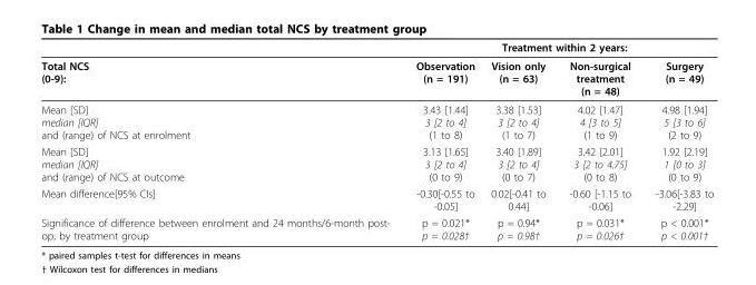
<table><thead><tr><td rowspan="2">Total NCS (0-9):</td><td colspan="4">Treatment within 2 years:</td></tr><tr><td>Observation (n = 191)</td><td>Vision only (n = 63)</td><td>Non-surgical treatment (n = 48)</td><td>Surgery (n = 49)</td></tr></thead><tbody><tr><td>Mean [SD] median [IQR] and (range) of NCS at enrolment</td><td>3.43 [1.44] 3 [2 to 4] (1 to 8)</td><td>3.38 [1.53] 3 [2 to 4] (1 to 7)</td><td>4.02 [1.47] 4 [3 to 5] (1 to 9)</td><td>4.98 [1.94] 5 [3 to 6] (2 to 9)</td></tr><tr><td>Mean [SD] median [IQR] and (range) of NCS at outcome</td><td>3.13 [1.65] 3 [2 to 4] (0 to 9)</td><td>3.40 [1.89] 3 [2 to 4] (0 to 7)</td><td>3.42 [2.01] 3 [2 to 4.75] (0 to 8)</td><td>1.92 [2.19] 1 [0 to 3] (0 to 9)</td></tr><tr><td>Mean difference[95% CIs]</td><td>-0.30[-0.55 to -0.05]</td><td>0.02[-0.41 to 0.44]</td><td>-0.60 [-1.15 to -0.06]</td><td>-3.06[-3.83 to -2.29]</td></tr><tr><td>Significance of difference between enrolment and 24 months/6-month post- op, by treatment group</td><td>p = 0.021* p = 0.028†</td><td>p = 0.94* p = 0.98†</td><td>p = 0.031* p = 0.026†</td><td>p &lt; 0.001* p &lt; 0.001†</td></tr></tbody></table>